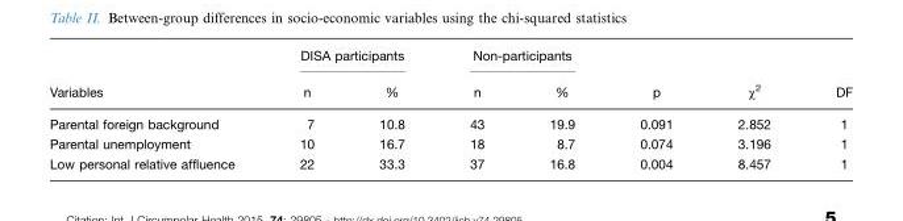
<table><thead><tr><td rowspan="2">Variables</td><td colspan="2">DISA participants</td><td colspan="2">Non-participants</td><td rowspan="2">p</td><td rowspan="2">χ<sup>2</sup></td><td rowspan="2">DF</td></tr><tr><td>n</td><td>%</td><td>n</td><td>%</td></tr></thead><tbody><tr><td>Parental foreign background</td><td>7</td><td>10.8</td><td>43</td><td>19.9</td><td>0.091</td><td>2.852</td><td>1</td></tr><tr><td>Parental unemployment</td><td>10</td><td>16.7</td><td>18</td><td>8.7</td><td>0.074</td><td>3.196</td><td>1</td></tr><tr><td>Low personal relative affluence</td><td>22</td><td>33.3</td><td>37</td><td>16.8</td><td>0.004</td><td>8.457</td><td>1</td></tr></tbody></table>